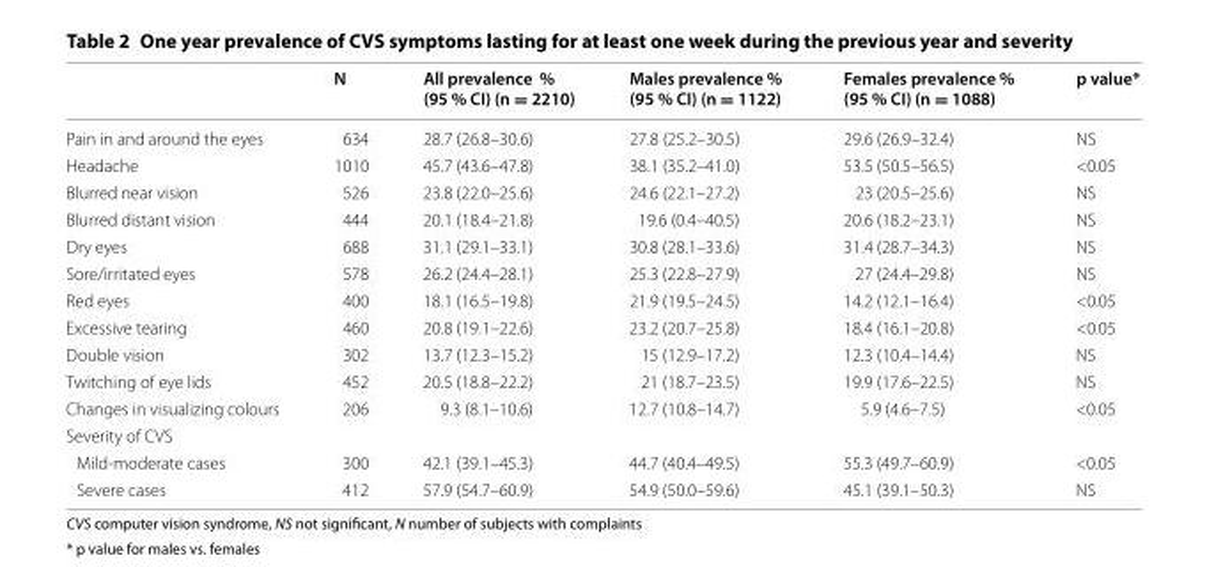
<table><thead><tr><td></td><td>N</td><td>All prevalence % (95 % CI) (n = 2210)</td><td>Males prevalence % (95 % CI) (n = 1122)</td><td>Females prevalence % (95 % CI) (n = 1088)</td><td>p value*</td></tr></thead><tbody><tr><td>Pain in and around the eyes</td><td>634</td><td>28.7 (26.8–30.6)</td><td>27.8 (25.2–30.5)</td><td>29.6 (26.9–32.4)</td><td>NS</td></tr><tr><td>Headache</td><td>1010</td><td>45.7 (43.6–47.8)</td><td>38.1 (35.2–41.0)</td><td>53.5 (50.5–56.5)</td><td>&lt;0.05</td></tr><tr><td>Blurred near vision</td><td>526</td><td>23.8 (22.0–25.6)</td><td>24.6 (22.1–27.2)</td><td>23 (20.5–25.6)</td><td>NS</td></tr><tr><td>Blurred distant vision</td><td>444</td><td>20.1 (18.4–21.8)</td><td>19.6 (0.4–40.5)</td><td>20.6 (18.2–23.1)</td><td>NS</td></tr><tr><td>Dry eyes</td><td>688</td><td>31.1 (29.1–33.1)</td><td>30.8 (28.1–33.6)</td><td>31.4 (28.7–34.3)</td><td>NS</td></tr><tr><td>Sore/irritated eyes</td><td>578</td><td>26.2 (24.4–28.1)</td><td>25.3 (22.8–27.9)</td><td>27 (24.4–29.8)</td><td>NS</td></tr><tr><td>Red eyes</td><td>400</td><td>18.1 (16.5–19.8)</td><td>21.9 (19.5–24.5)</td><td>14.2 (12.1–16.4)</td><td>&lt;0.05</td></tr><tr><td>Excessive tearing</td><td>460</td><td>20.8 (19.1–22.6)</td><td>23.2 (20.7–25.8)</td><td>18.4 (16.1–20.8)</td><td>&lt;0.05</td></tr><tr><td>Double vision</td><td>302</td><td>13.7 (12.3–15.2)</td><td>15 (12.9–17.2)</td><td>12.3 (10.4–14.4)</td><td>NS</td></tr><tr><td>Twitching of eye lids</td><td>452</td><td>20.5 (18.8–22.2)</td><td>21 (18.7–23.5)</td><td>19.9 (17.6–22.5)</td><td>NS</td></tr><tr><td>Changes in visualizing colours</td><td>206</td><td>9.3 (8.1–10.6)</td><td>12.7 (10.8–14.7)</td><td>5.9 (4.6–7.5)</td><td>&lt;0.05</td></tr><tr><td colspan="6">Severity of CVS</td></tr><tr><td>Mild-moderate cases</td><td>300</td><td>42.1 (39.1–45.3)</td><td>44.7 (40.4–49.5)</td><td>55.3 (49.7–60.9)</td><td>&lt;0.05</td></tr><tr><td>Severe cases</td><td>412</td><td>57.9 (54.7–60.9)</td><td>54.9 (50.0–59.6)</td><td>45.1 (39.1–50.3)</td><td>NS</td></tr></tbody></table>